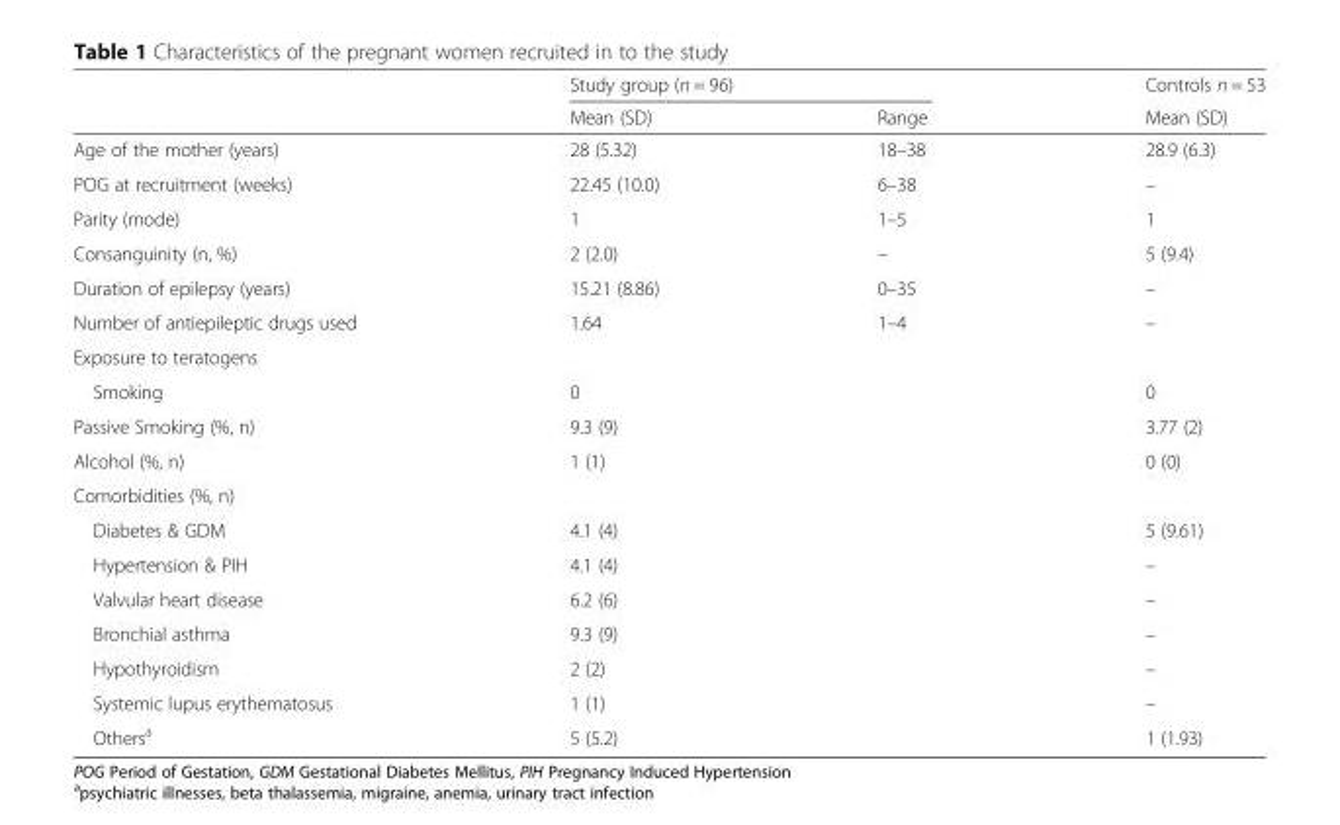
<table><thead><tr><td rowspan="2"></td><td colspan="2">Study group (n = 96)</td><td rowspan="2">Controls n = 53 Mean (SD)</td></tr><tr><td>Mean (SD)</td><td>Range</td></tr></thead><tbody><tr><td>Age of the mother (years)</td><td>28 (5.32)</td><td>18–38</td><td>28.9 (6.3)</td></tr><tr><td>POG at recruitment (weeks)</td><td>22.45 (10.0)</td><td>6–38</td><td>–</td></tr><tr><td>Parity (mode)</td><td>1</td><td>1–5</td><td>1</td></tr><tr><td>Consanguinity (n, %)</td><td>2 (2.0)</td><td>–</td><td>5 (9.4)</td></tr><tr><td>Duration of epilepsy (years)</td><td>15.21 (8.86)</td><td>0–35</td><td>–</td></tr><tr><td>Number of antiepileptic drugs used</td><td>1.64</td><td>1–4</td><td>–</td></tr><tr><td colspan="4">Exposure to teratogens</td></tr><tr><td>Smoking</td><td>0</td><td></td><td>0</td></tr><tr><td>Passive Smoking (%, n)</td><td>9.3 (9)</td><td></td><td>3.77 (2)</td></tr><tr><td>Alcohol (%, n)</td><td>1 (1)</td><td></td><td>0 (0)</td></tr><tr><td colspan="4">Comorbidities (%, n)</td></tr><tr><td>Diabetes &amp; GDM</td><td>4.1 (4)</td><td></td><td>5 (9.61)</td></tr><tr><td>Hypertension &amp; PIH</td><td>4.1 (4)</td><td></td><td>–</td></tr><tr><td>Valvular heart disease</td><td>6.2 (6)</td><td></td><td>–</td></tr><tr><td>Bronchial asthma</td><td>9.3 (9)</td><td></td><td>–</td></tr><tr><td>Hypothyroidism</td><td>2 (2)</td><td></td><td>–</td></tr><tr><td>Systemic lupus erythematosus</td><td>1 (1)</td><td></td><td>–</td></tr><tr><td>Others<sup>a</sup></td><td>5 (5.2)</td><td></td><td>1 (1.93)</td></tr></tbody></table>